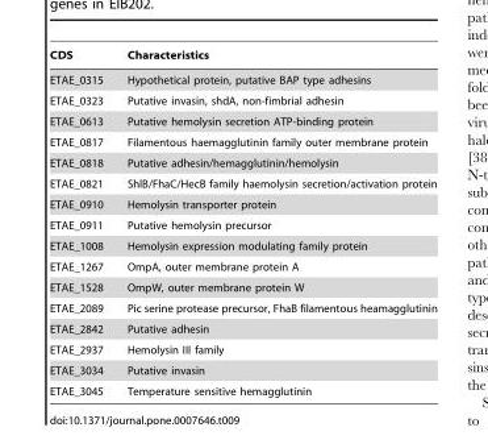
<table><thead><tr><td>CDS</td><td>Characteristics</td></tr></thead><tbody><tr><td>ETAE_0315</td><td>Hypothetical protein, putative BAP type adhesins</td></tr><tr><td>ETAE_0323</td><td>Putative invasin, shdA, non-fimbrial adhesin</td></tr><tr><td>ETAE_0613</td><td>Putative hemolysin secretion ATP-binding protein</td></tr><tr><td>ETAE_0817</td><td>Filamentous haemagglutinin family outer membrane protein</td></tr><tr><td>ETAE_0818</td><td>Putative adhesin/hemagglutinin/hemolysin</td></tr><tr><td>ETAE_0821</td><td>ShlB/FhaC/HecB family haemolysin secretion/activation protein</td></tr><tr><td>ETAE_0910</td><td>Hemolysin transporter protein</td></tr><tr><td>ETAE_0911</td><td>Putative hemolysin precursor</td></tr><tr><td>ETAE_1008</td><td>Hemolysin expression modulating family protein</td></tr><tr><td>ETAE_1267</td><td>OmpA, outer membrane protein A</td></tr><tr><td>ETAE_1528</td><td>OmpW, outer membrane protein W</td></tr><tr><td>ETAE_2089</td><td>Pic serine protease precursor, FhaB filamentous heamagglutinin</td></tr><tr><td>ETAE_2842</td><td>Putative adhesin</td></tr><tr><td>ETAE_2937</td><td>Hemolysin III family</td></tr><tr><td>ETAE_3034</td><td>Putative invasin</td></tr><tr><td>ETAE_3045</td><td>Temperature sensitive hemagglutinin</td></tr></tbody></table>